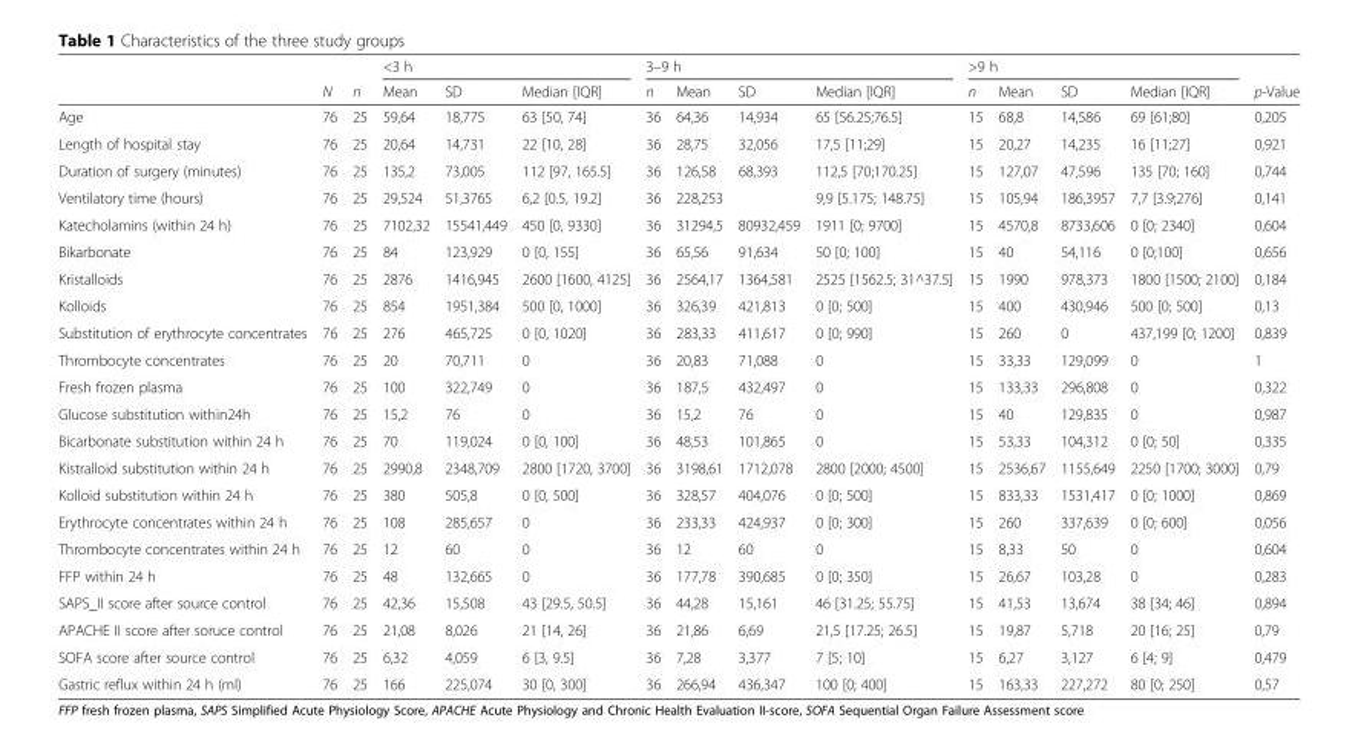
<table><thead><tr><td rowspan="2"></td><td rowspan="2">N</td><td rowspan="2">n</td><td colspan="3">&lt;3 h</td><td colspan="4">3–9 h</td><td colspan="4">&gt;9 h</td><td rowspan="2">p-Value</td></tr><tr><td>Mean</td><td>SD</td><td>Median [IQR]</td><td>n</td><td>Mean</td><td>SD</td><td>Median [IQR]</td><td>n</td><td>Mean</td><td>SD</td><td>Median [IQR]</td></tr></thead><tbody><tr><td>Age</td><td>76</td><td>25</td><td>59,64</td><td>18,775</td><td>63 [50, 74]</td><td>36</td><td>64,36</td><td>14,934</td><td>65 [56.25;76.5]</td><td>15</td><td>68,8</td><td>14,586</td><td>69 [61;80]</td><td>0,205</td></tr><tr><td>Length of hospital stay</td><td>76</td><td>25</td><td>20,64</td><td>14,731</td><td>22 [10, 28]</td><td>36</td><td>28,75</td><td>32,056</td><td>17,5 [11;29]</td><td>15</td><td>20,27</td><td>14,235</td><td>16 [11;27]</td><td>0,921</td></tr><tr><td>Duration of surgery (minutes)</td><td>76</td><td>25</td><td>135,2</td><td>73,005</td><td>112 [97, 165.5]</td><td>36</td><td>126,58</td><td>68,393</td><td>112,5 [70;170.25]</td><td>15</td><td>127,07</td><td>47,596</td><td>135 [70; 160]</td><td>0,744</td></tr><tr><td>Ventilatory time (hours)</td><td>76</td><td>25</td><td>29,524</td><td>51,3765</td><td>6,2 [0.5, 19.2]</td><td>36</td><td>228,253</td><td></td><td>9,9 [5.175; 148.75]</td><td>15</td><td>105,94</td><td>186,3957</td><td>7,7 [3.9;276]</td><td>0,141</td></tr><tr><td>Katecholamins (within 24 h)</td><td>76</td><td>25</td><td>7102,32</td><td>15541,449</td><td>450 [0, 9330]</td><td>36</td><td>31294,5</td><td>80932,459</td><td>1911 [0; 9700]</td><td>15</td><td>4570,8</td><td>8733,606</td><td>0 [0; 2340]</td><td>0,604</td></tr><tr><td>Bikarbonate</td><td>76</td><td>25</td><td>84</td><td>123,929</td><td>0 [0, 155]</td><td>36</td><td>65,56</td><td>91,634</td><td>50 [0; 100]</td><td>15</td><td>40</td><td>54,116</td><td>0 [0;100]</td><td>0,656</td></tr><tr><td>Kristalloids</td><td>76</td><td>25</td><td>2876</td><td>1416,945</td><td>2600 [1600, 4125]</td><td>36</td><td>2564,17</td><td>1364,581</td><td>2525 [1562.5; 31^37.5]</td><td>15</td><td>1990</td><td>978,373</td><td>1800 [1500; 2100]</td><td>0,184</td></tr><tr><td>Kolloids</td><td>76</td><td>25</td><td>854</td><td>1951,384</td><td>500 [0, 1000]</td><td>36</td><td>326,39</td><td>421,813</td><td>0 [0; 500]</td><td>15</td><td>400</td><td>430,946</td><td>500 [0; 500]</td><td>0,13</td></tr><tr><td>Substitution of erythrocyte concentrates</td><td>76</td><td>25</td><td>276</td><td>465,725</td><td>0 [0, 1020]</td><td>36</td><td>283,33</td><td>411,617</td><td>0 [0; 990]</td><td>15</td><td>260</td><td>0</td><td>437,199 [0; 1200]</td><td>0,839</td></tr><tr><td>Thrombocyte concentrates</td><td>76</td><td>25</td><td>20</td><td>70,711</td><td>0</td><td>36</td><td>20,83</td><td>71,088</td><td>0</td><td>15</td><td>33,33</td><td>129,099</td><td>0</td><td>1</td></tr><tr><td>Fresh frozen plasma</td><td>76</td><td>25</td><td>100</td><td>322,749</td><td>0</td><td>36</td><td>187,5</td><td>432,497</td><td>0</td><td>15</td><td>133,33</td><td>296,808</td><td>0</td><td>0,322</td></tr><tr><td>Glucose substitution within24h</td><td>76</td><td>25</td><td>15,2</td><td>76</td><td>0</td><td>36</td><td>15,2</td><td>76</td><td>0</td><td>15</td><td>40</td><td>129,835</td><td>0</td><td>0,987</td></tr><tr><td>Bicarbonate substitution within 24 h</td><td>76</td><td>25</td><td>70</td><td>119,024</td><td>0 [0, 100]</td><td>36</td><td>48,53</td><td>101,865</td><td>0</td><td>15</td><td>53,33</td><td>104,312</td><td>0 [0; 50]</td><td>0,335</td></tr><tr><td>Kistralloid substitution within 24 h</td><td>76</td><td>25</td><td>2990,8</td><td>2348,709</td><td>2800 [1720, 3700]</td><td>36</td><td>3198,61</td><td>1712,078</td><td>2800 [2000; 4500]</td><td>15</td><td>2536,67</td><td>1155,649</td><td>2250 [1700; 3000]</td><td>0,79</td></tr><tr><td>Kolloid substitution within 24 h</td><td>76</td><td>25</td><td>380</td><td>505,8</td><td>0 [0, 500]</td><td>36</td><td>328,57</td><td>404,076</td><td>0 [0; 500]</td><td>15</td><td>833,33</td><td>1531,417</td><td>0 [0; 1000]</td><td>0,869</td></tr><tr><td>Erythrocyte concentrates within 24 h</td><td>76</td><td>25</td><td>108</td><td>285,657</td><td>0</td><td>36</td><td>233,33</td><td>424,937</td><td>0 [0; 300]</td><td>15</td><td>260</td><td>337,639</td><td>0 [0; 600]</td><td>0,056</td></tr><tr><td>Thrombocyte concentrates within 24 h</td><td>76</td><td>25</td><td>12</td><td>60</td><td>0</td><td>36</td><td>12</td><td>60</td><td>0</td><td>15</td><td>8,33</td><td>50</td><td>0</td><td>0,604</td></tr><tr><td>FFP within 24 h</td><td>76</td><td>25</td><td>48</td><td>132,665</td><td>0</td><td>36</td><td>177,78</td><td>390,685</td><td>0 [0; 350]</td><td>15</td><td>26,67</td><td>103,28</td><td>0</td><td>0,283</td></tr><tr><td>SAPS_II score after source control</td><td>76</td><td>25</td><td>42,36</td><td>15,508</td><td>43 [29.5, 50.5]</td><td>36</td><td>44,28</td><td>15,161</td><td>46 [31.25; 55.75]</td><td>15</td><td>41,53</td><td>13,674</td><td>38 [34; 46]</td><td>0,894</td></tr><tr><td>APACHE II score after soruce control</td><td>76</td><td>25</td><td>21,08</td><td>8,026</td><td>21 [14, 26]</td><td>36</td><td>21,86</td><td>6,69</td><td>21,5 [17.25; 26.5]</td><td>15</td><td>19,87</td><td>5,718</td><td>20 [16; 25]</td><td>0,79</td></tr><tr><td>SOFA score after source control</td><td>76</td><td>25</td><td>6,32</td><td>4,059</td><td>6 [3, 9.5]</td><td>36</td><td>7,28</td><td>3,377</td><td>7 [5; 10]</td><td>15</td><td>6,27</td><td>3,127</td><td>6 [4; 9]</td><td>0,479</td></tr><tr><td>Gastric reflux within 24 h (ml)</td><td>76</td><td>25</td><td>166</td><td>225,074</td><td>30 [0, 300]</td><td>36</td><td>266,94</td><td>436,347</td><td>100 [0; 400]</td><td>15</td><td>163,33</td><td>227,272</td><td>80 [0; 250]</td><td>0,57</td></tr></tbody></table>